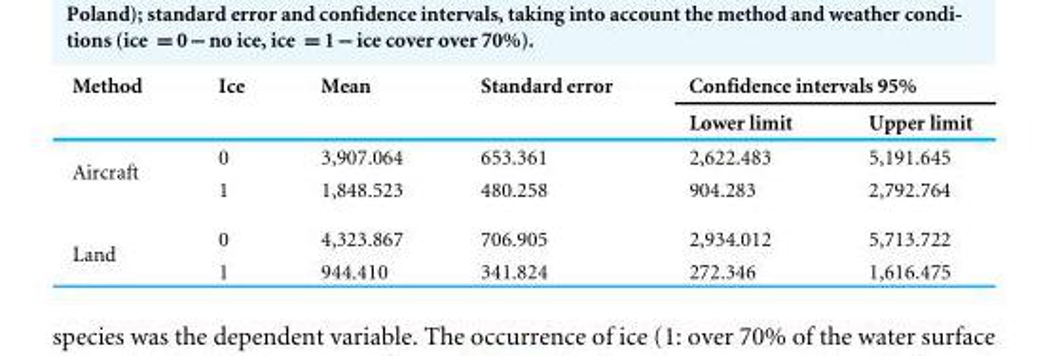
<table><thead><tr><td rowspan="2">Method</td><td rowspan="2">Ice</td><td rowspan="2">Mean</td><td rowspan="2">Standard error</td><td colspan="2">Confidence intervals 95%</td></tr><tr><td>Lower limit</td><td>Upper limit</td></tr></thead><tbody><tr><td rowspan="2">Aircraft</td><td>0</td><td>3,907.064</td><td>653.361</td><td>2,622.483</td><td>5,191.645</td></tr><tr><td>1</td><td>1,848.523</td><td>480.258</td><td>904.283</td><td>2,792.764</td></tr><tr><td rowspan="2">Land</td><td>0</td><td>4,323.867</td><td>706.905</td><td>2,934.012</td><td>5,713.722</td></tr><tr><td>1</td><td>944.410</td><td>341.824</td><td>272.346</td><td>1,616.475</td></tr></tbody></table>